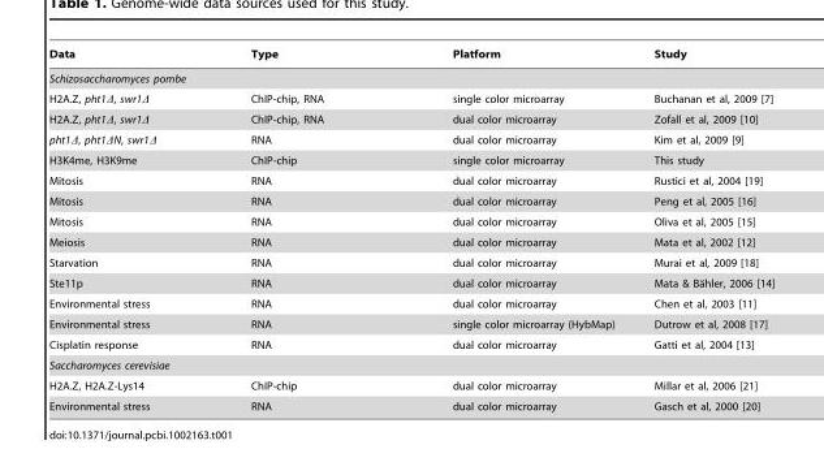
<table><thead><tr><td>Data</td><td>Type</td><td>Platform</td><td>Study</td></tr></thead><tbody><tr><td colspan="4">Schizosaccharomyces pombe</td></tr><tr><td>H2A.Z, pht1Δ, swr1Δ</td><td>ChIP-chip, RNA</td><td>single color microarray</td><td>Buchanan et al, 2009 [7]</td></tr><tr><td>H2A.Z, pht1Δ, swr1Δ</td><td>ChIP-chip, RNA</td><td>dual color microarray</td><td>Zofall et al, 2009 [10]</td></tr><tr><td>pht1Δ, pht1ΔN, swr1Δ</td><td>RNA</td><td>dual color microarray</td><td>Kim et al, 2009 [9]</td></tr><tr><td>H3K4me, H3K9me</td><td>ChIP-chip</td><td>single color microarray</td><td>This study</td></tr><tr><td>Mitosis</td><td>RNA</td><td>dual color microarray</td><td>Rustici et al, 2004 [19]</td></tr><tr><td>Mitosis</td><td>RNA</td><td>dual color microarray</td><td>Peng et al, 2005 [16]</td></tr><tr><td>Mitosis</td><td>RNA</td><td>dual color microarray</td><td>Oliva et al, 2005 [15]</td></tr><tr><td>Meiosis</td><td>RNA</td><td>dual color microarray</td><td>Mata et al, 2002 [12]</td></tr><tr><td>Starvation</td><td>RNA</td><td>dual color microarray</td><td>Murai et al, 2009 [18]</td></tr><tr><td>Ste11p</td><td>RNA</td><td>dual color microarray</td><td>Mata &amp; Ba¨hler, 2006 [14]</td></tr><tr><td>Environmental stress</td><td>RNA</td><td>dual color microarray</td><td>Chen et al, 2003 [11]</td></tr><tr><td>Environmental stress</td><td>RNA</td><td>single color microarray (HybMap)</td><td>Dutrow et al, 2008 [17]</td></tr><tr><td>Cisplatin response</td><td>RNA</td><td>dual color microarray</td><td>Gatti et al, 2004 [13]</td></tr><tr><td colspan="4">Saccharomyces cerevisiae</td></tr><tr><td>H2A.Z, H2A.Z-Lys14</td><td>ChIP-chip</td><td>dual color microarray</td><td>Millar et al, 2006 [21]</td></tr><tr><td>Environmental stress</td><td>RNA</td><td>dual color microarray</td><td>Gasch et al, 2000 [20]</td></tr></tbody></table>